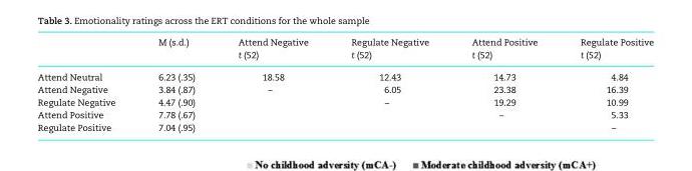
<table><thead><tr><td rowspan="2"></td><td rowspan="2">M (s.d.)</td><td rowspan="2">Attend Negative t (52)</td><td rowspan="2">Regulate Negative t (52)</td><td rowspan="2">Attend Positive t (52)</td><td rowspan="2">Regulate Positive t (52)</td></tr><tr></tr></thead><tbody><tr><td>Attend Neutral</td><td>6.23 (.35)</td><td>18.58</td><td>12.43</td><td>14.73</td><td>4.84</td></tr><tr><td>Attend Negative</td><td>3.84 (.87)</td><td>–</td><td>6.05</td><td>23.38</td><td>16.39</td></tr><tr><td>Regulate Negative</td><td>4.47 (.90)</td><td></td><td>–</td><td>19.29</td><td>10.99</td></tr><tr><td>Attend Positive</td><td>7.78 (.67)</td><td></td><td></td><td>–</td><td>5.33</td></tr><tr><td>Regulate Positive</td><td>7.04 (.95)</td><td></td><td></td><td></td><td>–</td></tr></tbody></table>